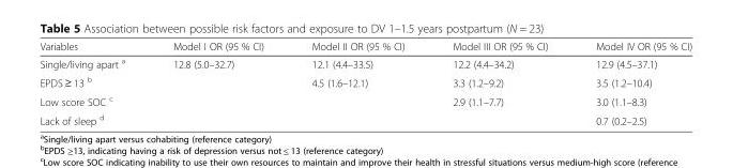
<table><thead><tr><td>Variables</td><td>Model I OR (95 % CI)</td><td>Model II OR (95 % CI)</td><td>Model III OR (95 % CI)</td><td>Model IV OR (95 % CI)</td></tr></thead><tbody><tr><td>Single/living apart <sup>a</sup></td><td>12.8 (5.0–32.7)</td><td>12.1 (4.4–33.5)</td><td>12.2 (4.4–34.2)</td><td>12.9 (4.5–37.1)</td></tr><tr><td>EPDS ≥ 13 <sup>b</sup></td><td></td><td>4.5 (1.6–12.1)</td><td>3.3 (1.2–9.2)</td><td>3.5 (1.2–10.4)</td></tr><tr><td>Low score SOC <sup>c</sup></td><td></td><td></td><td>2.9 (1.1–7.7)</td><td>3.0 (1.1–8.3)</td></tr><tr><td>Lack of sleep <sup>d</sup></td><td></td><td></td><td></td><td>0.7 (0.2–2.5)</td></tr></tbody></table>